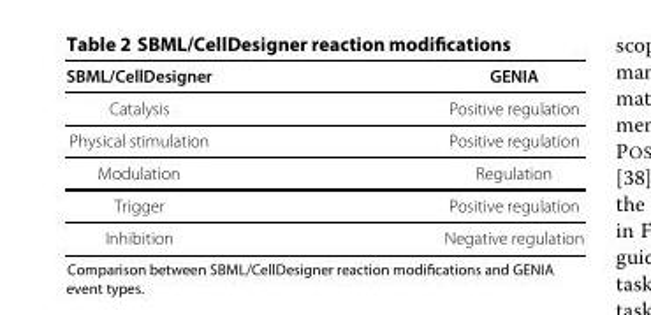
<table><thead><tr><td>SBML/CellDesigner</td><td>GENIA</td></tr></thead><tbody><tr><td>Catalysis</td><td>Positive regulation</td></tr><tr><td>Physical stimulation</td><td>Positive regulation</td></tr><tr><td>Modulation</td><td>Regulation</td></tr><tr><td>Trigger</td><td>Positive regulation</td></tr><tr><td>Inhibition</td><td>Negative regulation</td></tr></tbody></table>